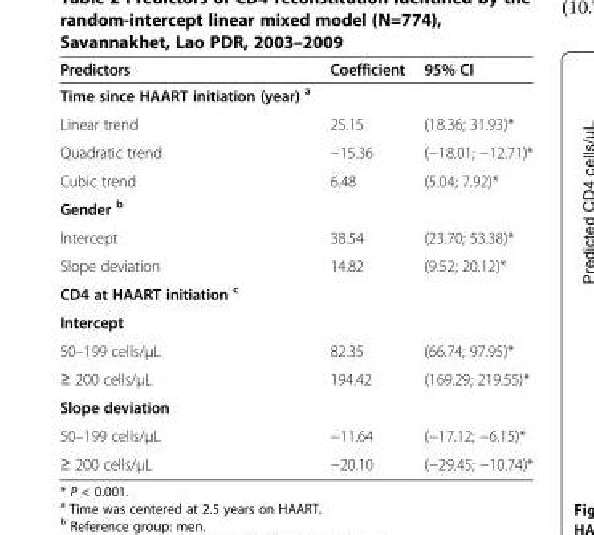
<table><thead><tr><td>Predictors</td><td>Coefficient</td><td>95% CI</td></tr></thead><tbody><tr><td colspan="3">Time since HAART initiation (year) <sup>a</sup></td></tr><tr><td>Linear trend</td><td>25.15</td><td>(18.36; 31.93)*</td></tr><tr><td>Quadratic trend</td><td>−15.36</td><td>(−18.01; −12.71)*</td></tr><tr><td>Cubic trend</td><td>6.48</td><td>(5.04; 7.92)*</td></tr><tr><td colspan="3">Gender <sup>b</sup></td></tr><tr><td>Intercept</td><td>38.54</td><td>(23.70; 53.38)*</td></tr><tr><td>Slope deviation</td><td>14.82</td><td>(9.52; 20.12)*</td></tr><tr><td colspan="3">CD4 at HAART initiation <sup>c</sup></td></tr><tr><td colspan="3">Intercept</td></tr><tr><td>50–199 cells/μL</td><td>82.35</td><td>(66.74; 97.95)*</td></tr><tr><td>≥ 200 cells/μL</td><td>194.42</td><td>(169.29; 219.55)*</td></tr><tr><td colspan="3">Slope deviation</td></tr><tr><td>50–199 cells/μL</td><td>−11.64</td><td>(−17.12; −6.15)*</td></tr><tr><td>≥ 200 cells/μL</td><td>−20.10</td><td>(−29.45; −10.74)*</td></tr></tbody></table>